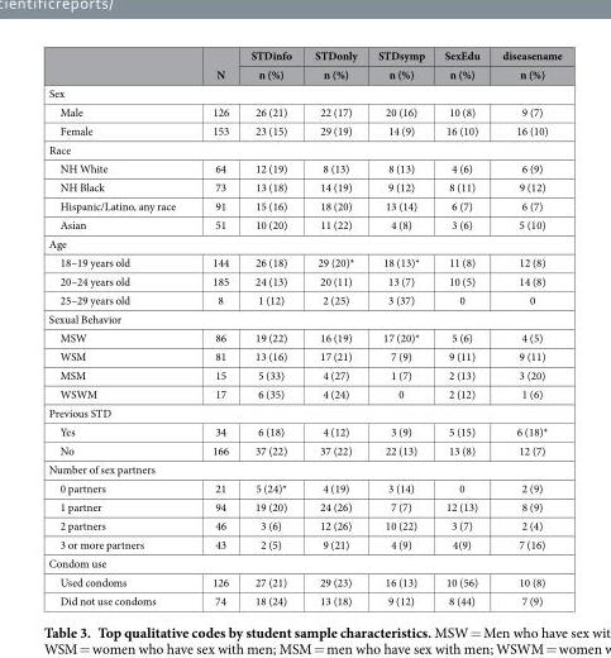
<table><thead><tr><td rowspan="2"></td><td rowspan="2">N</td><td rowspan="2">STDinfo n (%)</td><td rowspan="2">STDonly n (%)</td><td rowspan="2">STDsymp n (%)</td><td rowspan="2">SexEdu n (%)</td><td rowspan="2">diseasename n (%)</td></tr><tr></tr></thead><tbody><tr><td colspan="7">Sex</td></tr><tr><td>Male</td><td>126</td><td>26 (21)</td><td>22 (17)</td><td>20 (16)</td><td>10 (8)</td><td>9 (7)</td></tr><tr><td>Female</td><td>153</td><td>23 (15)</td><td>29 (19)</td><td>14 (9)</td><td>16 (10)</td><td>16 (10)</td></tr><tr><td colspan="7">Race</td></tr><tr><td>NH White</td><td>64</td><td>12 (19)</td><td>8 (13)</td><td>8 (13)</td><td>4 (6)</td><td>6 (9)</td></tr><tr><td>NH Black</td><td>73</td><td>13 (18)</td><td>14 (19)</td><td>9 (12)</td><td>8 (11)</td><td>9 (12)</td></tr><tr><td>Hispanic/Latino, any race</td><td>91</td><td>15 (16)</td><td>18 (20)</td><td>13 (14)</td><td>6 (7)</td><td>6 (7)</td></tr><tr><td>Asian</td><td>51</td><td>10 (20)</td><td>11 (22)</td><td>4 (8)</td><td>3 (6)</td><td>5 (10)</td></tr><tr><td colspan="7">Age</td></tr><tr><td>18–19 years old</td><td>144</td><td>26 (18)</td><td>29 (20)*</td><td>18 (13)*</td><td>11 (8)</td><td>12 (8)</td></tr><tr><td>20–24 years old</td><td>185</td><td>24 (13)</td><td>20 (11)</td><td>13 (7)</td><td>10 (5)</td><td>14 (8)</td></tr><tr><td>25–29 years old</td><td>8</td><td>1 (12)</td><td>2 (25)</td><td>3 (37)</td><td>0</td><td>0</td></tr><tr><td colspan="7">Sexual Behavior</td></tr><tr><td>MSW</td><td>86</td><td>19 (22)</td><td>16 (19)</td><td>17 (20)*</td><td>5 (6)</td><td>4 (5)</td></tr><tr><td>WSM</td><td>81</td><td>13 (16)</td><td>17 (21)</td><td>7 (9)</td><td>9 (11)</td><td>9 (11)</td></tr><tr><td>MSM</td><td>15</td><td>5 (33)</td><td>4 (27)</td><td>1 (7)</td><td>2 (13)</td><td>3 (20)</td></tr><tr><td>WSWM</td><td>17</td><td>6 (35)</td><td>4 (24)</td><td>0</td><td>2 (12)</td><td>1 (6)</td></tr><tr><td colspan="7">Previous STD</td></tr><tr><td>Yes</td><td>34</td><td>6 (18)</td><td>4 (12)</td><td>3 (9)</td><td>5 (15)</td><td>6 (18)*</td></tr><tr><td>No</td><td>166</td><td>37 (22)</td><td>37 (22)</td><td>22 (13)</td><td>13 (8)</td><td>12 (7)</td></tr><tr><td colspan="7">Number of sex partners</td></tr><tr><td>0 partners</td><td>21</td><td>5 (24)*</td><td>4 (19)</td><td>3 (14)</td><td>0</td><td>2 (9)</td></tr><tr><td>1 partner</td><td>94</td><td>19 (20)</td><td>24 (26)</td><td>7 (7)</td><td>12 (13)</td><td>8 (9)</td></tr><tr><td>2 partners</td><td>46</td><td>3 (6)</td><td>12 (26)</td><td>10 (22)</td><td>3 (7)</td><td>2 (4)</td></tr><tr><td>3 or more partners</td><td>43</td><td>2 (5)</td><td>9 (21)</td><td>4 (9)</td><td>4(9)</td><td>7 (16)</td></tr><tr><td colspan="7">Condom use</td></tr><tr><td>Used condoms</td><td>126</td><td>27 (21)</td><td>29 (23)</td><td>16 (13)</td><td>10 (56)</td><td>10 (8)</td></tr><tr><td>Did not use condoms</td><td>74</td><td>18 (24)</td><td>13 (18)</td><td>9 (12)</td><td>8 (44)</td><td>7 (9)</td></tr></tbody></table>